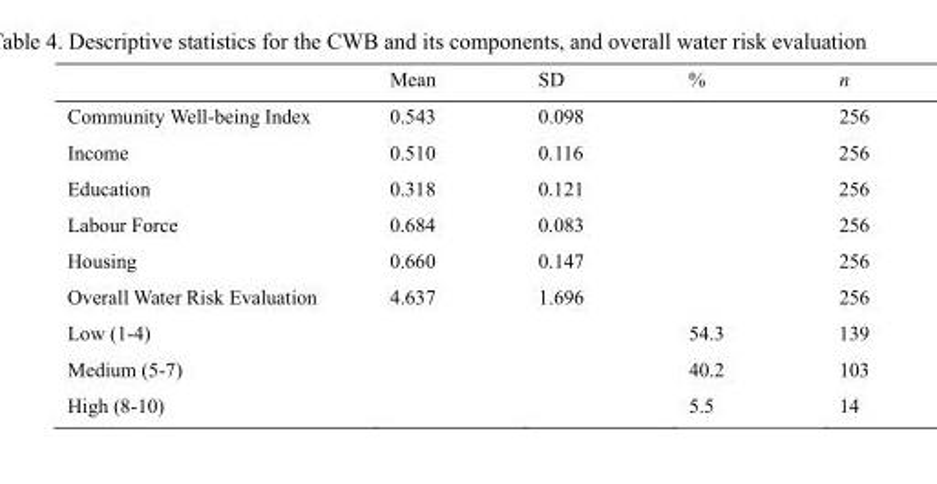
<table><thead><tr><td></td><td>Mean</td><td>SD</td><td>%</td><td>n</td></tr></thead><tbody><tr><td>Community Well-being Index</td><td>0.543</td><td>0.098</td><td></td><td>256</td></tr><tr><td>Income</td><td>0.510</td><td>0.116</td><td></td><td>256</td></tr><tr><td>Education</td><td>0.318</td><td>0.121</td><td></td><td>256</td></tr><tr><td>Labour Force</td><td>0.684</td><td>0.083</td><td></td><td>256</td></tr><tr><td>Housing</td><td>0.660</td><td>0.147</td><td></td><td>256</td></tr><tr><td>Overall Water Risk Evaluation</td><td>4.637</td><td>1.696</td><td></td><td>256</td></tr><tr><td>Low (1-4)</td><td></td><td></td><td>54.3</td><td>139</td></tr><tr><td>Medium (5-7)</td><td></td><td></td><td>40.2</td><td>103</td></tr><tr><td>High (8-10)</td><td></td><td></td><td>5.5</td><td>14</td></tr></tbody></table>